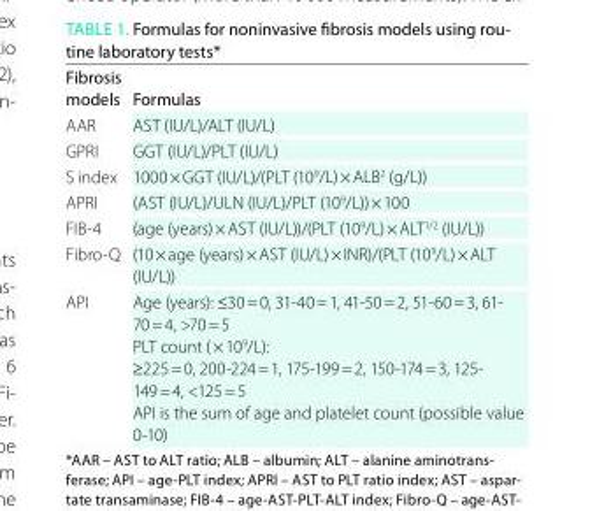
<table><thead><tr><td>Fibrosis models</td><td>Formulas</td></tr></thead><tbody><tr><td>AAR</td><td>AST (IU/L)/ALT (IU/L)</td></tr><tr><td>GPRI</td><td>GGT (IU/L)/PLT (IU/L)</td></tr><tr><td>S index</td><td>1000 × GGT (IU/L)/(PLT (10<sup>9</sup>/L) × ALB<sup>2</sup> (g/L))</td></tr><tr><td>APRI</td><td>(AST (IU/L)/ULN (IU/L)/PLT (10<sup>9</sup>/L)) × 100</td></tr><tr><td>FIB-4</td><td>(age (years) × AST (IU/L))/(PLT (10<sup>9</sup>/L) × ALT<sup>1/2</sup> (IU/L))</td></tr><tr><td>Fibro-Q</td><td>(10 × age (years) × AST (IU/L) × INR)/(PLT (10<sup>9</sup>/L) × ALT (IU/L))</td></tr><tr><td>API</td><td>Age (years): ≤30 = 0, 31-40 = 1, 41-50 = 2, 51-60 = 3, 61- 70 = 4, &gt;70 = 5 PLT count ( × 10<sup>9</sup>/L): ≥225 = 0, 200-224 = 1, 175-199 = 2, 150-174 = 3, 125- 149 = 4, &lt;125 = 5 API is the sum of age and platelet count (possible value 0-10)</td></tr></tbody></table>